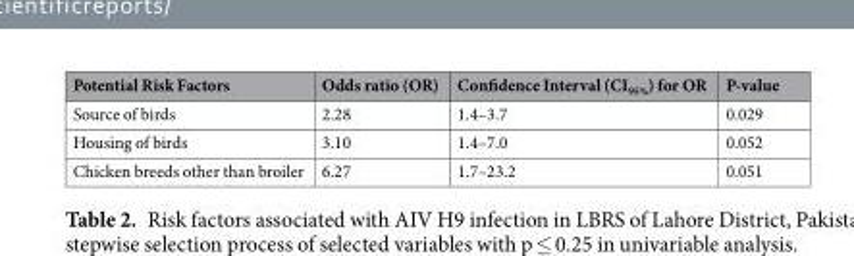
<table><thead><tr><td>Potential Risk Factors</td><td>Odds ratio (OR)</td><td>Confidence Interval (CI<sub>95%</sub>) for OR</td><td>P-value</td></tr></thead><tbody><tr><td>Source of birds</td><td>2.28</td><td>1.4–3.7</td><td>0.029</td></tr><tr><td>Housing of birds</td><td>3.10</td><td>1.4–7.0</td><td>0.052</td></tr><tr><td>Chicken breeds other than broiler</td><td>6.27</td><td>1.7–23.2</td><td>0.051</td></tr></tbody></table>